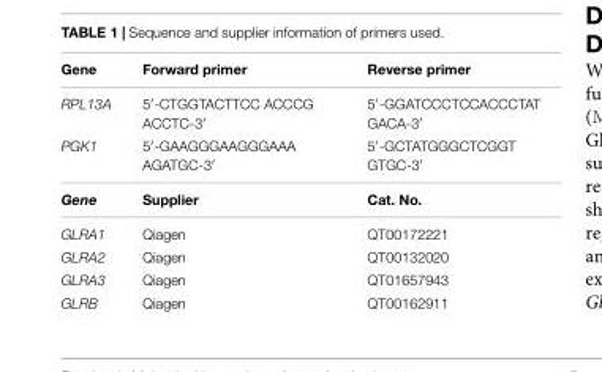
<table><thead><tr><td>Gene</td><td>Forward primer</td><td>Reverse primer</td></tr></thead><tbody><tr><td>RPL13A</td><td>5′-CTGGTACTTCC ACCCG ACCTC-3′</td><td>5′-GGATCCCTCCACCCTAT GACA-3′</td></tr><tr><td>PGK1</td><td>5′-GAAGGGAAGGGAAA AGATGC-3′</td><td>5′-GCTATGGGCTCGGT GTGC-3′</td></tr><tr><td>Gene</td><td>Supplier</td><td>Cat. No.</td></tr><tr><td>GLRA1</td><td>Qiagen</td><td>QT00172221</td></tr><tr><td>GLRA2</td><td>Qiagen</td><td>QT00132020</td></tr><tr><td>GLRA3</td><td>Qiagen</td><td>QT01657943</td></tr><tr><td>GLRB</td><td>Qiagen</td><td>QT00162911</td></tr></tbody></table>